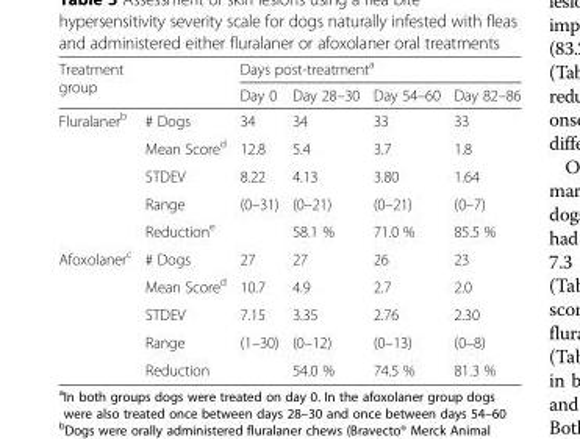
<table><thead><tr><td rowspan="2">Treatment group</td><td rowspan="2"></td><td colspan="4">Days post-treatment<sup>a</sup></td></tr><tr><td>Day 0</td><td>Day 28–30</td><td>Day 54–60</td><td>Day 82–86</td></tr></thead><tbody><tr><td rowspan="5">Fluralaner<sup>b</sup></td><td># Dogs</td><td>34</td><td>34</td><td>33</td><td>33</td></tr><tr><td>Mean Score<sup>d</sup></td><td>12.8</td><td>5.4</td><td>3.7</td><td>1.8</td></tr><tr><td>STDEV</td><td>8.22</td><td>4.13</td><td>3.80</td><td>1.64</td></tr><tr><td>Range</td><td>(0–31)</td><td>(0–21)</td><td>(0–21)</td><td>(0–7)</td></tr><tr><td>Reduction<sup>e</sup></td><td></td><td>58.1 %</td><td>71.0 %</td><td>85.5 %</td></tr><tr><td rowspan="5">Afoxolaner<sup>c</sup></td><td># Dogs</td><td>27</td><td>27</td><td>26</td><td>23</td></tr><tr><td>Mean Score<sup>d</sup></td><td>10.7</td><td>4.9</td><td>2.7</td><td>2.0</td></tr><tr><td>STDEV</td><td>7.15</td><td>3.35</td><td>2.76</td><td>2.30</td></tr><tr><td>Range</td><td>(1–30)</td><td>(0–12)</td><td>(0–13)</td><td>(0–8)</td></tr><tr><td>Reduction</td><td></td><td>54.0 %</td><td>74.5 %</td><td>81.3 %</td></tr></tbody></table>